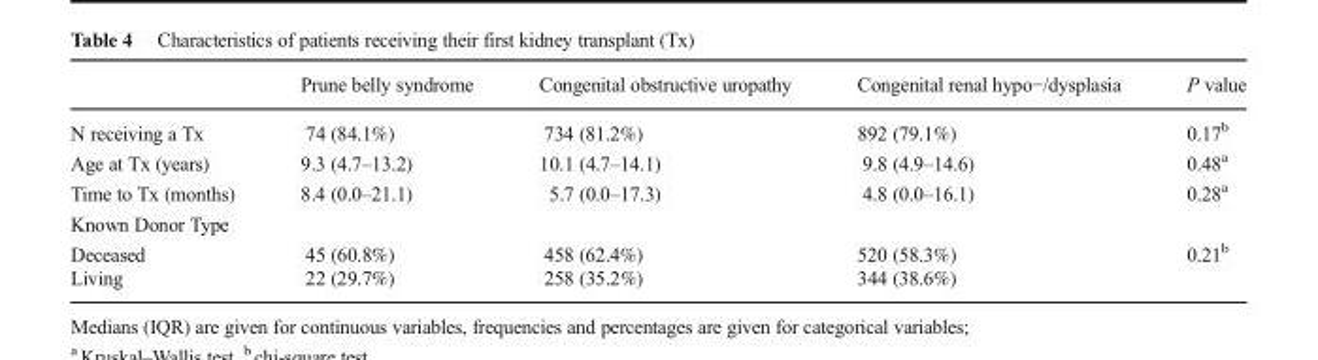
<table><thead><tr><td></td><td>Prune belly syndrome</td><td>Congenital obstructive uropathy</td><td>Congenital renal hypo−/dysplasia</td><td>P value</td></tr></thead><tbody><tr><td>N receiving a Tx</td><td>74 (84.1%)</td><td>734 (81.2%)</td><td>892 (79.1%)</td><td>0.17<sup>b</sup></td></tr><tr><td>Age at Tx (years)</td><td>9.3 (4.7–13.2)</td><td>10.1 (4.7–14.1)</td><td>9.8 (4.9–14.6)</td><td>0.48<sup>a</sup></td></tr><tr><td>Time to Tx (months)</td><td>8.4 (0.0–21.1)</td><td>5.7 (0.0–17.3)</td><td>4.8 (0.0–16.1)</td><td>0.28<sup>a</sup></td></tr><tr><td colspan="5">Known Donor Type</td></tr><tr><td>Deceased</td><td>45 (60.8%)</td><td>458 (62.4%)</td><td>520 (58.3%)</td><td rowspan="2">0.21<sup>b</sup></td></tr><tr><td>Living</td><td>22 (29.7%)</td><td>258 (35.2%)</td><td>344 (38.6%)</td></tr></tbody></table>